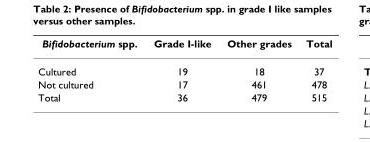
<table><thead><tr><td>Bifidobacterium spp.</td><td>Grade I-like</td><td>Other grades</td><td>Total</td></tr></thead><tbody><tr><td>Cultured</td><td>19</td><td>18</td><td>37</td></tr><tr><td>Not cultured</td><td>17</td><td>461</td><td>478</td></tr><tr><td>Total</td><td>36</td><td>479</td><td>515</td></tr></tbody></table>